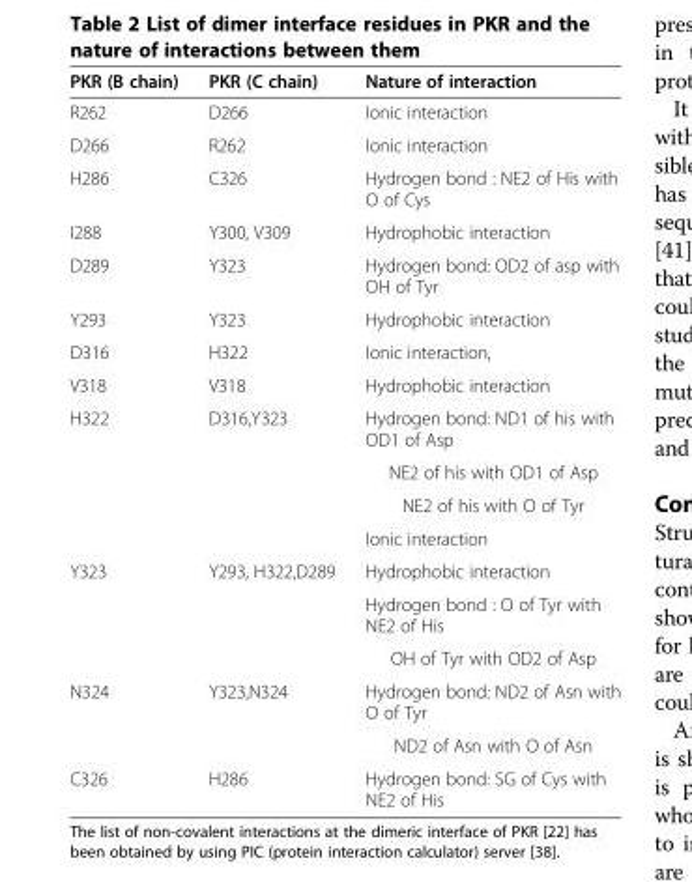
<table><thead><tr><td>PKR (B chain)</td><td>PKR (C chain)</td><td>Nature of interaction</td></tr></thead><tbody><tr><td>R262</td><td>D266</td><td>Ionic interaction</td></tr><tr><td>D266</td><td>R262</td><td>Ionic interaction</td></tr><tr><td>H286</td><td>C326</td><td>Hydrogen bond : NE2 of His with O of Cys</td></tr><tr><td>I288</td><td>Y300, V309</td><td>Hydrophobic interaction</td></tr><tr><td>D289</td><td>Y323</td><td>Hydrogen bond: OD2 of asp with OH of Tyr</td></tr><tr><td>Y293</td><td>Y323</td><td>Hydrophobic interaction</td></tr><tr><td>D316</td><td>H322</td><td>Ionic interaction,</td></tr><tr><td>V318</td><td>V318</td><td>Hydrophobic interaction</td></tr><tr><td rowspan="4">H322</td><td rowspan="4">D316,Y323</td><td>Hydrogen bond: ND1 of his with OD1 of Asp</td></tr><tr><td>NE2 of his with OD1 of Asp</td></tr><tr><td>NE2 of his with O of Tyr</td></tr><tr><td>Ionic interaction</td></tr><tr><td rowspan="3">Y323</td><td rowspan="3">Y293, H322,D289</td><td>Hydrophobic interaction</td></tr><tr><td>Hydrogen bond : O of Tyr with NE2 of His</td></tr><tr><td>OH of Tyr with OD2 of Asp</td></tr><tr><td rowspan="2">N324</td><td rowspan="2">Y323,N324</td><td>Hydrogen bond: ND2 of Asn with O of Tyr</td></tr><tr><td>ND2 of Asn with O of Asn</td></tr><tr><td>C326</td><td>H286</td><td>Hydrogen bond: SG of Cys with NE2 of His</td></tr></tbody></table>